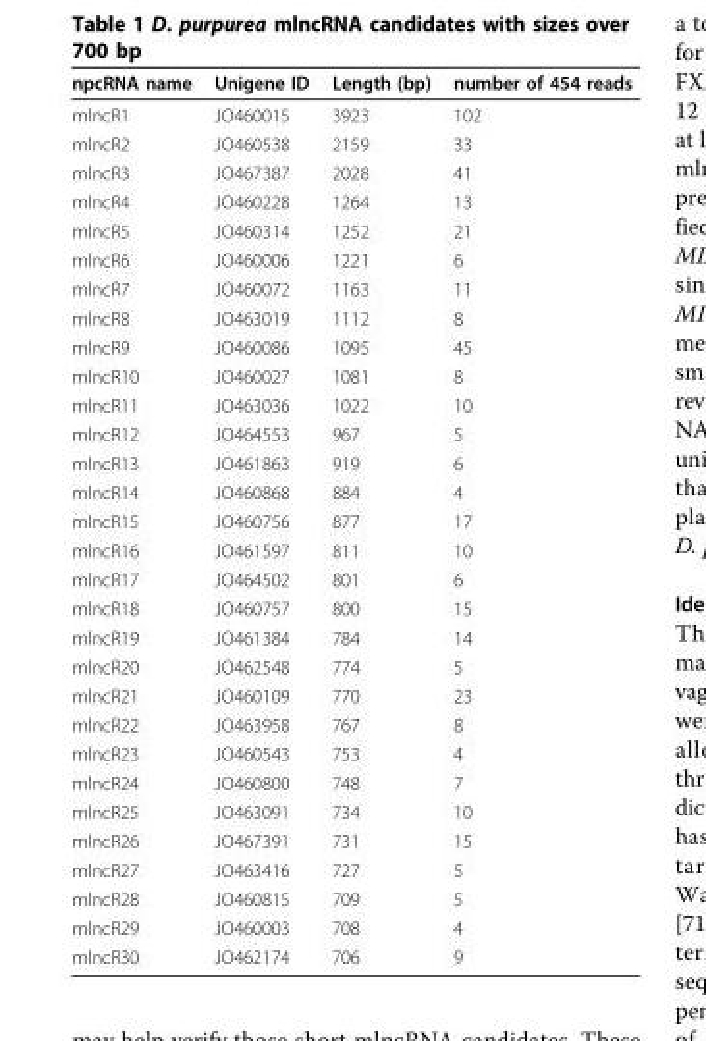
<table><thead><tr><td>npcRNA name</td><td>Unigene ID</td><td>Length (bp)</td><td>number of 454 reads</td></tr></thead><tbody><tr><td>mlncR1</td><td>JO460015</td><td>3923</td><td>102</td></tr><tr><td>mlncR2</td><td>JO460538</td><td>2159</td><td>33</td></tr><tr><td>mlncR3</td><td>JO467387</td><td>2028</td><td>41</td></tr><tr><td>mlncR4</td><td>JO460228</td><td>1264</td><td>13</td></tr><tr><td>mlncR5</td><td>JO460314</td><td>1252</td><td>21</td></tr><tr><td>mlncR6</td><td>JO460006</td><td>1221</td><td>6</td></tr><tr><td>mlncR7</td><td>JO460072</td><td>1163</td><td>11</td></tr><tr><td>mlncR8</td><td>JO463019</td><td>1112</td><td>8</td></tr><tr><td>mlncR9</td><td>JO460086</td><td>1095</td><td>45</td></tr><tr><td>mlncR10</td><td>JO460027</td><td>1081</td><td>8</td></tr><tr><td>mlncR11</td><td>JO463036</td><td>1022</td><td>10</td></tr><tr><td>mlncR12</td><td>JO464553</td><td>967</td><td>5</td></tr><tr><td>mlncR13</td><td>JO461863</td><td>919</td><td>6</td></tr><tr><td>mlncR14</td><td>JO460868</td><td>884</td><td>4</td></tr><tr><td>mlncR15</td><td>JO460756</td><td>877</td><td>17</td></tr><tr><td>mlncR16</td><td>JO461597</td><td>811</td><td>10</td></tr><tr><td>mlncR17</td><td>JO464502</td><td>801</td><td>6</td></tr><tr><td>mlncR18</td><td>JO460757</td><td>800</td><td>15</td></tr><tr><td>mlncR19</td><td>JO461384</td><td>784</td><td>14</td></tr><tr><td>mlncR20</td><td>JO462548</td><td>774</td><td>5</td></tr><tr><td>mlncR21</td><td>JO460109</td><td>770</td><td>23</td></tr><tr><td>mlncR22</td><td>JO463958</td><td>767</td><td>8</td></tr><tr><td>mlncR23</td><td>JO460543</td><td>753</td><td>4</td></tr><tr><td>mlncR24</td><td>JO460800</td><td>748</td><td>7</td></tr><tr><td>mlncR25</td><td>JO463091</td><td>734</td><td>10</td></tr><tr><td>mlncR26</td><td>JO467391</td><td>731</td><td>15</td></tr><tr><td>mlncR27</td><td>JO463416</td><td>727</td><td>5</td></tr><tr><td>mlncR28</td><td>JO460815</td><td>709</td><td>5</td></tr><tr><td>mlncR29</td><td>JO460003</td><td>708</td><td>4</td></tr><tr><td>mlncR30</td><td>JO462174</td><td>706</td><td>9</td></tr></tbody></table>